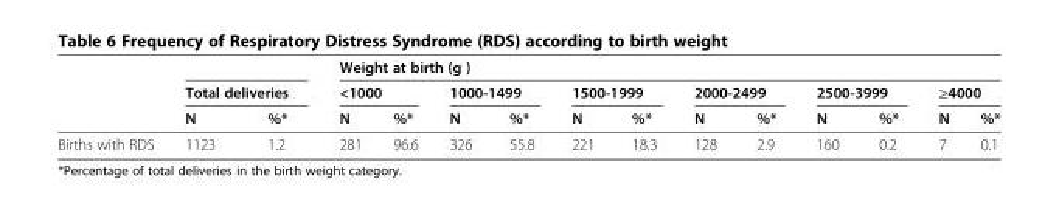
<table><thead><tr><td rowspan="3"></td><td></td><td></td><td colspan="12">Weight at birth (g )</td></tr><tr><td colspan="2">Total deliveries</td><td colspan="2">&lt;1000</td><td colspan="2">1000-1499</td><td colspan="2">1500-1999</td><td colspan="2">2000-2499</td><td colspan="2">2500-3999</td><td colspan="2">≥4000</td></tr><tr><td>N</td><td>%*</td><td>N</td><td>%*</td><td>N</td><td>%*</td><td>N</td><td>%*</td><td>N</td><td>%*</td><td>N</td><td>%*</td><td>N</td><td>%*</td></tr></thead><tbody><tr><td>Births with RDS</td><td>1123</td><td>1.2</td><td>281</td><td>96.6</td><td>326</td><td>55.8</td><td>221</td><td>18.3</td><td>128</td><td>2.9</td><td>160</td><td>0.2</td><td>7</td><td>0.1</td></tr></tbody></table>